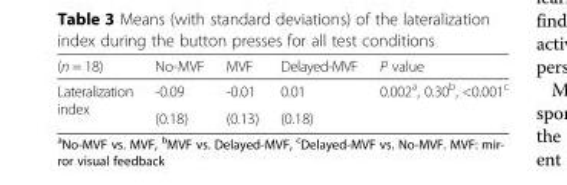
<table><thead><tr><td>(n = 18)</td><td>No-MVF</td><td>MVF</td><td>Delayed-MVF</td><td>P value</td></tr></thead><tbody><tr><td rowspan="2">Lateralization index</td><td>-0.09</td><td>-0.01</td><td>0.01</td><td rowspan="2">0.002<sup>a</sup>, 0.30<sup>b</sup>, &lt;0.001<sup>c</sup></td></tr><tr><td>(0.18)</td><td>(0.13)</td><td>(0.18)</td></tr></tbody></table>